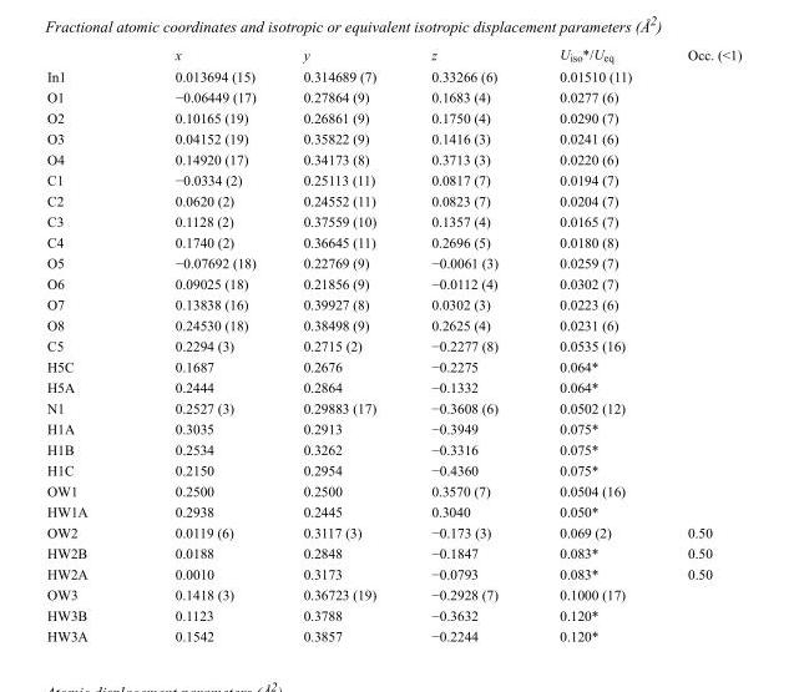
<table><thead><tr><td></td><td>x</td><td>y</td><td>z</td><td>U<sub>iso</sub>*/U<sub>eq</sub></td><td>Occ. (&lt;1)</td></tr></thead><tbody><tr><td>In1</td><td>0.013694 (15)</td><td>0.314689 (7)</td><td>0.33266 (6)</td><td>0.01510 (11)</td><td></td></tr><tr><td>O1</td><td>−0.06449 (17)</td><td>0.27864 (9)</td><td>0.1683 (4)</td><td>0.0277 (6)</td><td></td></tr><tr><td>O2</td><td>0.10165 (19)</td><td>0.26861 (9)</td><td>0.1750 (4)</td><td>0.0290 (7)</td><td></td></tr><tr><td>O3</td><td>0.04152 (19)</td><td>0.35822 (9)</td><td>0.1416 (3)</td><td>0.0241 (6)</td><td></td></tr><tr><td>O4</td><td>0.14920 (17)</td><td>0.34173 (8)</td><td>0.3713 (3)</td><td>0.0220 (6)</td><td></td></tr><tr><td>C1</td><td>−0.0334 (2)</td><td>0.25113 (11)</td><td>0.0817 (7)</td><td>0.0194 (7)</td><td></td></tr><tr><td>C2</td><td>0.0620 (2)</td><td>0.24552 (11)</td><td>0.0823 (7)</td><td>0.0204 (7)</td><td></td></tr><tr><td>C3</td><td>0.1128 (2)</td><td>0.37559 (10)</td><td>0.1357 (4)</td><td>0.0165 (7)</td><td></td></tr><tr><td>C4</td><td>0.1740 (2)</td><td>0.36645 (11)</td><td>0.2696 (5)</td><td>0.0180 (8)</td><td></td></tr><tr><td>O5</td><td>−0.07692 (18)</td><td>0.22769 (9)</td><td>−0.0061 (3)</td><td>0.0259 (7)</td><td></td></tr><tr><td>O6</td><td>0.09025 (18)</td><td>0.21856 (9)</td><td>−0.0112 (4)</td><td>0.0302 (7)</td><td></td></tr><tr><td>O7</td><td>0.13838 (16)</td><td>0.39927 (8)</td><td>0.0302 (3)</td><td>0.0223 (6)</td><td></td></tr><tr><td>O8</td><td>0.24530 (18)</td><td>0.38498 (9)</td><td>0.2625 (4)</td><td>0.0231 (6)</td><td></td></tr><tr><td>C5</td><td>0.2294 (3)</td><td>0.2715 (2)</td><td>−0.2277 (8)</td><td>0.0535 (16)</td><td></td></tr><tr><td>H5C</td><td>0.1687</td><td>0.2676</td><td>−0.2275</td><td>0.064*</td><td></td></tr><tr><td>H5A</td><td>0.2444</td><td>0.2864</td><td>−0.1332</td><td>0.064*</td><td></td></tr><tr><td>N1</td><td>0.2527 (3)</td><td>0.29883 (17)</td><td>−0.3608 (6)</td><td>0.0502 (12)</td><td></td></tr><tr><td>H1A</td><td>0.3035</td><td>0.2913</td><td>−0.3949</td><td>0.075*</td><td></td></tr><tr><td>H1B</td><td>0.2534</td><td>0.3262</td><td>−0.3316</td><td>0.075*</td><td></td></tr><tr><td>H1C</td><td>0.2150</td><td>0.2954</td><td>−0.4360</td><td>0.075*</td><td></td></tr><tr><td>OW1</td><td>0.2500</td><td>0.2500</td><td>0.3570 (7)</td><td>0.0504 (16)</td><td></td></tr><tr><td>HW1A</td><td>0.2938</td><td>0.2445</td><td>0.3040</td><td>0.050*</td><td></td></tr><tr><td>OW2</td><td>0.0119 (6)</td><td>0.3117 (3)</td><td>−0.173 (3)</td><td>0.069 (2)</td><td>0.50</td></tr><tr><td>HW2B</td><td>0.0188</td><td>0.2848</td><td>−0.1847</td><td>0.083*</td><td>0.50</td></tr><tr><td>HW2A</td><td>0.0010</td><td>0.3173</td><td>−0.0793</td><td>0.083*</td><td>0.50</td></tr><tr><td>OW3</td><td>0.1418 (3)</td><td>0.36723 (19)</td><td>−0.2928 (7)</td><td>0.1000 (17)</td><td></td></tr><tr><td>HW3B</td><td>0.1123</td><td>0.3788</td><td>−0.3632</td><td>0.120*</td><td></td></tr><tr><td>HW3A</td><td>0.1542</td><td>0.3857</td><td>−0.2244</td><td>0.120*</td><td></td></tr></tbody></table>